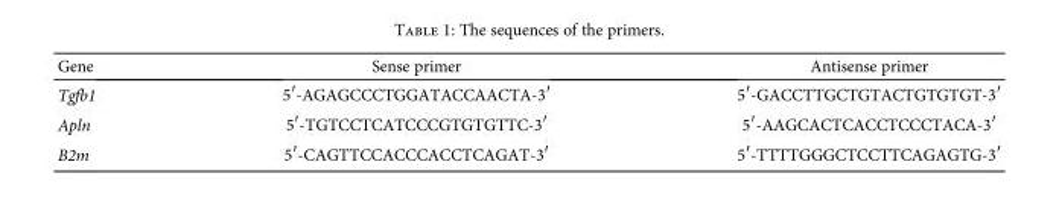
<table><thead><tr><td>Gene</td><td>Sense primer</td><td>Antisense primer</td></tr></thead><tbody><tr><td>Tgfb1</td><td>5′-AGAGCCCTGGATACCAACTA-3′</td><td>5′-GACCTTGCTGTACTGTGTGT-3′</td></tr><tr><td>Apln</td><td>5′-TGTCCTCATCCCGTGTGTTC-3′</td><td>5′-AAGCACTCACCTCCCTACA-3′</td></tr><tr><td>B2m</td><td>5′-CAGTTCCACCCACCTCAGAT-3′</td><td>5′-TTTTGGGCTCCTTCAGAGTG-3′</td></tr></tbody></table>